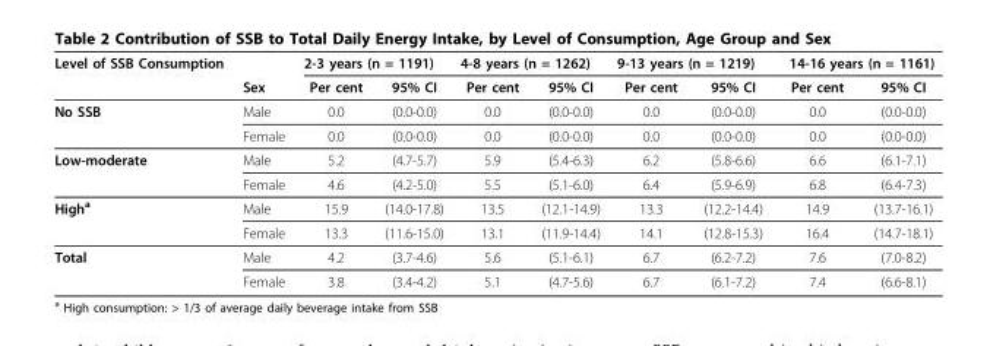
<table><thead><tr><td rowspan="2">Level of SSB Consumption</td><td rowspan="2">Sex</td><td colspan="2">2-3 years (n = 1191)</td><td colspan="2">4-8 years (n = 1262)</td><td colspan="2">9-13 years (n = 1219)</td><td colspan="2">14-16 years (n = 1161)</td></tr><tr><td>Per cent</td><td>95% CI</td><td>Per cent</td><td>95% CI</td><td>Per cent</td><td>95% CI</td><td>Per cent</td><td>95% CI</td></tr></thead><tbody><tr><td rowspan="2">No SSB</td><td>Male</td><td>0.0</td><td>(0.0-0.0)</td><td>0.0</td><td>(0.0-0.0)</td><td>0.0</td><td>(0.0-0.0)</td><td>0.0</td><td>(0.0-0.0)</td></tr><tr><td>Female</td><td>0.0</td><td>(0.0-0.0)</td><td>0.0</td><td>(0.0-0.0)</td><td>0.0</td><td>(0.0-0.0)</td><td>0.0</td><td>(0.0-0.0)</td></tr><tr><td rowspan="2">Low-moderate</td><td>Male</td><td>5.2</td><td>(4.7-5.7)</td><td>5.9</td><td>(5.4-6.3)</td><td>6.2</td><td>(5.8-6.6)</td><td>6.6</td><td>(6.1-7.1)</td></tr><tr><td>Female</td><td>4.6</td><td>(4.2-5.0)</td><td>5.5</td><td>(5.1-6.0)</td><td>6.4</td><td>(5.9-6.9)</td><td>6.8</td><td>(6.4-7.3)</td></tr><tr><td rowspan="2">High<sup>a</sup></td><td>Male</td><td>15.9</td><td>(14.0-17.8)</td><td>13.5</td><td>(12.1-14.9)</td><td>13.3</td><td>(12.2-14.4)</td><td>14.9</td><td>(13.7-16.1)</td></tr><tr><td>Female</td><td>13.3</td><td>(11.6-15.0)</td><td>13.1</td><td>(11.9-14.4)</td><td>14.1</td><td>(12.8-15.3)</td><td>16.4</td><td>(14.7-18.1)</td></tr><tr><td rowspan="2">Total</td><td>Male</td><td>4.2</td><td>(3.7-4.6)</td><td>5.6</td><td>(5.1-6.1)</td><td>6.7</td><td>(6.2-7.2)</td><td>7.6</td><td>(7.0-8.2)</td></tr><tr><td>Female</td><td>3.8</td><td>(3.4-4.2)</td><td>5.1</td><td>(4.7-5.6)</td><td>6.7</td><td>(6.1-7.2)</td><td>7.4</td><td>(6.6-8.1)</td></tr></tbody></table>